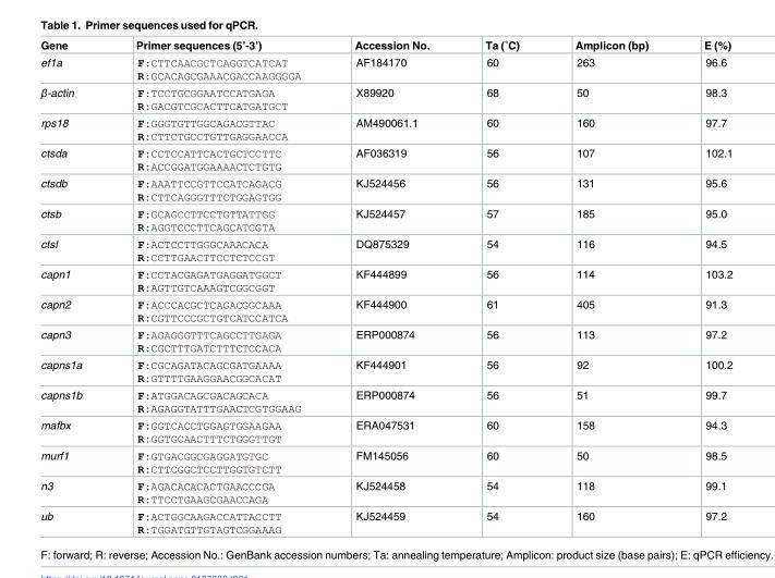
<table><thead><tr><td>Gene</td><td>Primer sequences (5’-3’)</td><td>Accession No.</td><td>Ta (˚C)</td><td>Amplicon (bp)</td><td>E (%)</td></tr></thead><tbody><tr><td>ef1a</td><td>F:CTTCAACGCTCAGGTCATCAT R:GCACAGCGAAACGACCAAGGGGA</td><td>AF184170</td><td>60</td><td>263</td><td>96.6</td></tr><tr><td>β-actin</td><td>F:TCCTGCGGAATCCATGAGA R:GACGTCGCACTTCATGATGCT</td><td>X89920</td><td>68</td><td>50</td><td>98.3</td></tr><tr><td>rps18</td><td>F:GGGTGTTGGCAGACGTTAC R:CTTCTGCCTGTTGAGGAACCA</td><td>AM490061.1</td><td>60</td><td>160</td><td>97.7</td></tr><tr><td>ctsda</td><td>F:CCTCCATTCACTGCTCCTTC R:ACCGGATGGAAAACTCTGTG</td><td>AF036319</td><td>56</td><td>107</td><td>102.1</td></tr><tr><td>ctsdb</td><td>F:AAATTCCGTTCCATCAGACG R:CTTCAGGGTTTCTGGAGTGG</td><td>KJ524456</td><td>56</td><td>131</td><td>95.6</td></tr><tr><td>ctsb</td><td>F:GCAGCCTTCCTGTTATTGG R:AGGTCCCTTCAGCATCGTA</td><td>KJ524457</td><td>57</td><td>185</td><td>95.0</td></tr><tr><td>ctsl</td><td>F:ACTCCTTGGGCAAACACA R:CCTTGAACTTCCTCTCCGT</td><td>DQ875329</td><td>54</td><td>116</td><td>94.5</td></tr><tr><td>capn1</td><td>F:CCTACGAGATGAGGATGGCT R:AGTTGTCAAAGTCGGCGGT</td><td>KF444899</td><td>56</td><td>114</td><td>103.2</td></tr><tr><td>capn2</td><td>F:ACCCACGCTCAGACGGCAAA R:CGTTCCCGCTGTCATCCATCA</td><td>KF444900</td><td>61</td><td>405</td><td>91.3</td></tr><tr><td>capn3</td><td>F:AGAGGGTTTCAGCCTTGAGA R:CGCTTTGATCTTTCTCCACA</td><td>ERP000874</td><td>56</td><td>113</td><td>97.2</td></tr><tr><td>capns1a</td><td>F:CGCAGATACAGCGATGAAAA R:GTTTTGAAGGAACGGCACAT</td><td>KF444901</td><td>56</td><td>92</td><td>100.2</td></tr><tr><td>capns1b</td><td>F:ATGGACAGCGACAGCACA R:AGAGGTATTTGAACTCGTGGAAG</td><td>ERP000874</td><td>56</td><td>51</td><td>99.7</td></tr><tr><td>mafbx</td><td>F:GGTCACCTGGAGTGGAAGAA R:GGTGCAACTTTCTGGGTTGT</td><td>ERA047531</td><td>60</td><td>158</td><td>94.3</td></tr><tr><td>murf1</td><td>F:GTGACGGCGAGGATGTGC R:CTTCGGCTCCTTGGTGTCTT</td><td>FM145056</td><td>60</td><td>50</td><td>98.5</td></tr><tr><td>n3</td><td>F:AGACACACACTGAACCCGA R:TTCCTGAAGCGAACCAGA</td><td>KJ524458</td><td>54</td><td>118</td><td>99.1</td></tr><tr><td>ub</td><td>F:ACTGGCAAGACCATTACCTT R:TGGATGTTGTAGTCGGAAAG</td><td>KJ524459</td><td>54</td><td>160</td><td>97.2</td></tr></tbody></table>